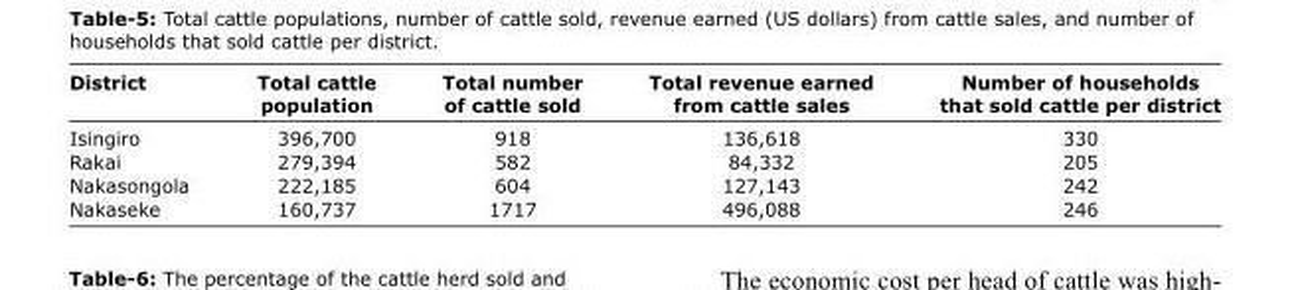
<table><thead><tr><td>District</td><td>Total cattle population</td><td>Total number of cattle sold</td><td>Total revenue earned from cattle sales</td><td>Number of households that sold cattle per district</td></tr></thead><tbody><tr><td>Isingiro</td><td>396,700</td><td>918</td><td>136,618</td><td>330</td></tr><tr><td>Rakai</td><td>279,394</td><td>582</td><td>84,332</td><td>205</td></tr><tr><td>Nakasongola</td><td>222,185</td><td>604</td><td>127,143</td><td>242</td></tr><tr><td>Nakaseke</td><td>160,737</td><td>1717</td><td>496,088</td><td>246</td></tr></tbody></table>